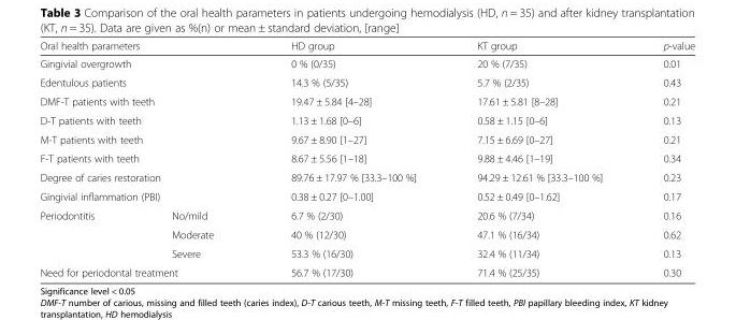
<table><thead><tr><td colspan="2">Oral health parameters</td><td>HD group</td><td>KT group</td><td>p-value</td></tr></thead><tbody><tr><td colspan="2">Gingivial overgrowth</td><td>0 % (0/35)</td><td>20 % (7/35)</td><td>0.01</td></tr><tr><td colspan="2">Edentulous patients</td><td>14.3 % (5/35)</td><td>5.7 % (2/35)</td><td>0.43</td></tr><tr><td colspan="2">DMF-T patients with teeth</td><td>19.47 ± 5.84 [4–28]</td><td>17.61 ± 5.81 [8–28]</td><td>0.21</td></tr><tr><td colspan="2">D-T patients with teeth</td><td>1.13 ± 1.68 [0–6]</td><td>0.58 ± 1.15 [0–6]</td><td>0.13</td></tr><tr><td colspan="2">M-T patients with teeth</td><td>9.67 ± 8.90 [1–27]</td><td>7.15 ± 6.69 [0–27]</td><td>0.21</td></tr><tr><td colspan="2">F-T patients with teeth</td><td>8.67 ± 5.56 [1–18]</td><td>9.88 ± 4.46 [1–19]</td><td>0.34</td></tr><tr><td colspan="2">Degree of caries restoration</td><td>89.76 ± 17.97 % [33.3–100 %]</td><td>94.29 ± 12.61 % [33.3–100 %]</td><td>0.23</td></tr><tr><td colspan="2">Gingivial inflammation (PBI)</td><td>0.38 ± 0.27 [0–1.00]</td><td>0.52 ± 0.49 [0–1.62]</td><td>0.17</td></tr><tr><td rowspan="3">Periodontitis</td><td>No/mild</td><td>6.7 % (2/30)</td><td>20.6 % (7/34)</td><td>0.16</td></tr><tr><td>Moderate</td><td>40 % (12/30)</td><td>47.1 % (16/34)</td><td>0.62</td></tr><tr><td>Severe</td><td>53.3 % (16/30)</td><td>32.4 % (11/34)</td><td>0.13</td></tr><tr><td colspan="2">Need for periodontal treatment</td><td>56.7 % (17/30)</td><td>71.4 % (25/35)</td><td>0.30</td></tr></tbody></table>